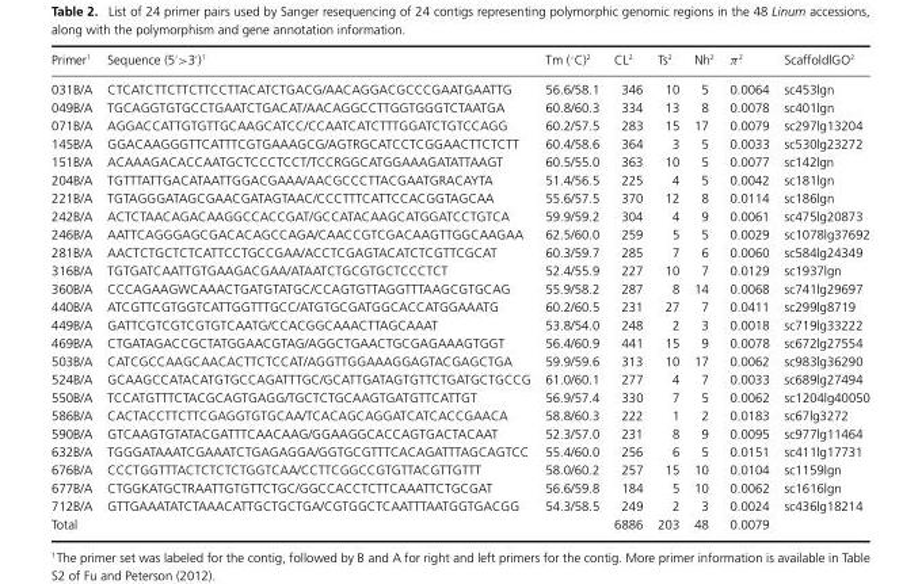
<table><thead><tr><td>Primer<sup>1</sup></td><td>Sequence (5′&gt;3′)<sup>1</sup></td><td>Tm (◦C)2</td><td>CL<sup>2</sup></td><td>Ts<sup>2</sup></td><td>Nh<sup>2</sup></td><td>π <sup>2</sup></td><td>Scaffold|GO<sup>2</sup></td></tr></thead><tbody><tr><td>031B/A</td><td>CTCATCTTCTTCTTCCTTACATCTGACG/AACAGGACGCCCGAATGAATTG</td><td>56.6/58.1</td><td>346</td><td>10</td><td>5</td><td>0.0064</td><td>sc453|gn</td></tr><tr><td>049B/A</td><td>TGCAGGTGTGCCTGAATCTGACAT/AACAGGCCTTGGTGGGTCTAATGA</td><td>60.8/60.3</td><td>334</td><td>13</td><td>8</td><td>0.0078</td><td>sc401|gn</td></tr><tr><td>071B/A</td><td>AGGACCATTGTGTTGCAAGCATCC/CCAATCATCTTTGGATCTGTCCAGG</td><td>60.2/57.5</td><td>283</td><td>15</td><td>17</td><td>0.0079</td><td>sc297|g13204</td></tr><tr><td>145B/A</td><td>GGACAAGGGTTCATTTCGTGAAAGCG/AGTRGCATCCTCGGAACTTCTCTT</td><td>60.4/58.6</td><td>364</td><td>3</td><td>5</td><td>0.0033</td><td>sc530|g23272</td></tr><tr><td>151B/A</td><td>ACAAAGACACCAATGCTCCCTCCT/TCCRGGCATGGAAAGATATTAAGT</td><td>60.5/55.0</td><td>363</td><td>10</td><td>5</td><td>0.0077</td><td>sc142|gn</td></tr><tr><td>204B/A</td><td>TGTTTATTGACATAATTGGACGAAA/AACGCCCTTACGAATGRACAYTA</td><td>51.4/56.5</td><td>225</td><td>4</td><td>5</td><td>0.0042</td><td>sc181|gn</td></tr><tr><td>221B/A</td><td>TGTAGGGATAGCGAACGATAGTAAC/CCCTTTCATTCCACGGTAGCAA</td><td>55.6/57.5</td><td>370</td><td>12</td><td>8</td><td>0.0114</td><td>sc186|gn</td></tr><tr><td>242B/A</td><td>ACTCTAACAGACAAGGCCACCGAT/GCCATACAAGCATGGATCCTGTCA</td><td>59.9/59.2</td><td>304</td><td>4</td><td>9</td><td>0.0061</td><td>sc475|g20873</td></tr><tr><td>246B/A</td><td>AATTCAGGGAGCGACACAGCCAGA/CAACCGTCGACAAGTTGGCAAGAA</td><td>62.5/60.0</td><td>259</td><td>5</td><td>5</td><td>0.0029</td><td>sc1078|g37692</td></tr><tr><td>281B/A</td><td>AACTCTGCTCTCATTCCTGCCGAA/ACCTCGAGTACATCTCGTTCGCAT</td><td>60.3/59.7</td><td>285</td><td>7</td><td>6</td><td>0.0060</td><td>sc584|g24349</td></tr><tr><td>316B/A</td><td>TGTGATCAATTGTGAAGACGAA/ATAATCTGCGTGCTCCCTCT</td><td>52.4/55.9</td><td>227</td><td>10</td><td>7</td><td>0.0129</td><td>sc1937|gn</td></tr><tr><td>360B/A</td><td>CCCAGAAGWCAAACTGATGTATGC/CCAGTGTTAGGTTTAAGCGTGCAG</td><td>55.9/58.2</td><td>287</td><td>8</td><td>14</td><td>0.0068</td><td>sc741|g29697</td></tr><tr><td>440B/A</td><td>ATCGTTCGTGGTCATTGGTTTGCC/ATGTGCGATGGCACCATGGAAATG</td><td>60.2/60.5</td><td>231</td><td>27</td><td>7</td><td>0.0411</td><td>sc299|g8719</td></tr><tr><td>449B/A</td><td>GATTCGTCGTCGTGTCAATG/CCACGGCAAACTTAGCAAAT</td><td>53.8/54.0</td><td>248</td><td>2</td><td>3</td><td>0.0018</td><td>sc719|g33222</td></tr><tr><td>469B/A</td><td>CTGATAGACCGCTATGGAACGTAG/AGGCTGAACTGCGAGAAAGTGGT</td><td>56.4/60.9</td><td>441</td><td>15</td><td>9</td><td>0.0078</td><td>sc672|g27554</td></tr><tr><td>503B/A</td><td>CATCGCCAAGCAACACTTCTCCAT/AGGTTGGAAAGGAGTACGAGCTGA</td><td>59.9/59.6</td><td>313</td><td>10</td><td>17</td><td>0.0062</td><td>sc983|g36290</td></tr><tr><td>524B/A</td><td>GCAAGCCATACATGTGCCAGATTTGC/GCATTGATAGTGTTCTGATGCTGCCG</td><td>61.0/60.1</td><td>277</td><td>4</td><td>7</td><td>0.0033</td><td>sc689|g27494</td></tr><tr><td>550B/A</td><td>TCCATGTTTCTACGCAGTGAGG/TGCTCTGCAAGTGATGTTCATTGT</td><td>56.9/57.4</td><td>330</td><td>7</td><td>5</td><td>0.0062</td><td>sc1204|g40050</td></tr><tr><td>586B/A</td><td>CACTACCTTCTTCGAGGTGTGCAA/TCACAGCAGGATCATCACCGAACA</td><td>58.8/60.3</td><td>222</td><td>1</td><td>2</td><td>0.0183</td><td>sc67|g3272</td></tr><tr><td>590B/A</td><td>GTCAAGTGTATACGATTTCAACAAG/GGAAGGCACCAGTGACTACAAT</td><td>52.3/57.0</td><td>231</td><td>8</td><td>9</td><td>0.0095</td><td>sc977|g11464</td></tr><tr><td>632B/A</td><td>TGGGATAAATCGAAATCTGAGAGGA/GGTGCGTTTCACAGATTTAGCAGTCC</td><td>55.4/60.0</td><td>256</td><td>6</td><td>5</td><td>0.0151</td><td>sc411|g17731</td></tr><tr><td>676B/A</td><td>CCCTGGTTTACTCTCTCTGGTCAA/CCTTCGGCCGTGTTACGTTGTTT</td><td>58.0/60.2</td><td>257</td><td>15</td><td>10</td><td>0.0104</td><td>sc1159|gn</td></tr><tr><td>677B/A</td><td>CTGGKATGCTRAATTGTGTTCTGC/GGCCACCTCTTCAAATTCTGCGAT</td><td>56.6/59.8</td><td>184</td><td>5</td><td>10</td><td>0.0062</td><td>sc1616|gn</td></tr><tr><td>712B/A</td><td>GTTGAAATATCTAAACATTGCTGCTGA/CGTGGCTCAATTTAATGGTGACGG</td><td>54.3/58.5</td><td>249</td><td>2</td><td>3</td><td>0.0024</td><td>sc436|g18214</td></tr><tr><td>Total</td><td></td><td></td><td>6886</td><td>203</td><td>48</td><td>0.0079</td><td></td></tr></tbody></table>